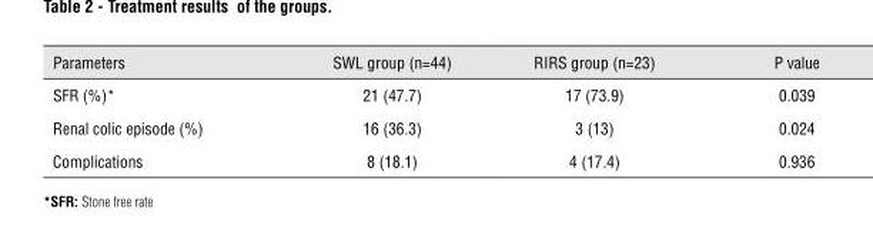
<table><thead><tr><td>Parameters</td><td>SWL group (n=44)</td><td>RIRS group (n=23)</td><td>P value</td></tr></thead><tbody><tr><td>SFR (%)*</td><td>21 (47.7)</td><td>17 (73.9)</td><td>0.039</td></tr><tr><td>Renal colic episode (%)</td><td>16 (36.3)</td><td>3 (13)</td><td>0.024</td></tr><tr><td>Complications</td><td>8 (18.1)</td><td>4 (17.4)</td><td>0.936</td></tr></tbody></table>